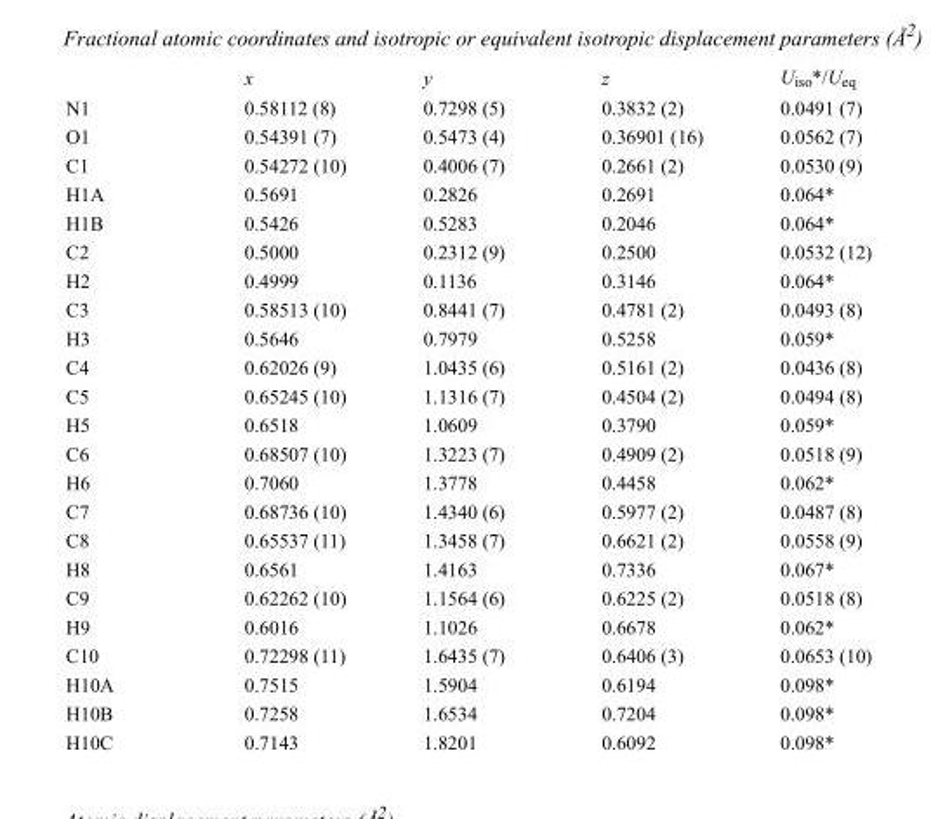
<table><thead><tr><td></td><td>x</td><td>y</td><td>z</td><td>U<sub>iso</sub>*/U<sub>eq</sub></td></tr></thead><tbody><tr><td>N1</td><td>0.58112 (8)</td><td>0.7298 (5)</td><td>0.3832 (2)</td><td>0.0491 (7)</td></tr><tr><td>O1</td><td>0.54391 (7)</td><td>0.5473 (4)</td><td>0.36901 (16)</td><td>0.0562 (7)</td></tr><tr><td>C1</td><td>0.54272 (10)</td><td>0.4006 (7)</td><td>0.2661 (2)</td><td>0.0530 (9)</td></tr><tr><td>H1A</td><td>0.5691</td><td>0.2826</td><td>0.2691</td><td>0.064*</td></tr><tr><td>H1B</td><td>0.5426</td><td>0.5283</td><td>0.2046</td><td>0.064*</td></tr><tr><td>C2</td><td>0.5000</td><td>0.2312 (9)</td><td>0.2500</td><td>0.0532 (12)</td></tr><tr><td>H2</td><td>0.4999</td><td>0.1136</td><td>0.3146</td><td>0.064*</td></tr><tr><td>C3</td><td>0.58513 (10)</td><td>0.8441 (7)</td><td>0.4781 (2)</td><td>0.0493 (8)</td></tr><tr><td>H3</td><td>0.5646</td><td>0.7979</td><td>0.5258</td><td>0.059*</td></tr><tr><td>C4</td><td>0.62026 (9)</td><td>1.0435 (6)</td><td>0.5161 (2)</td><td>0.0436 (8)</td></tr><tr><td>C5</td><td>0.65245 (10)</td><td>1.1316 (7)</td><td>0.4504 (2)</td><td>0.0494 (8)</td></tr><tr><td>H5</td><td>0.6518</td><td>1.0609</td><td>0.3790</td><td>0.059*</td></tr><tr><td>C6</td><td>0.68507 (10)</td><td>1.3223 (7)</td><td>0.4909 (2)</td><td>0.0518 (9)</td></tr><tr><td>H6</td><td>0.7060</td><td>1.3778</td><td>0.4458</td><td>0.062*</td></tr><tr><td>C7</td><td>0.68736 (10)</td><td>1.4340 (6)</td><td>0.5977 (2)</td><td>0.0487 (8)</td></tr><tr><td>C8</td><td>0.65537 (11)</td><td>1.3458 (7)</td><td>0.6621 (2)</td><td>0.0558 (9)</td></tr><tr><td>H8</td><td>0.6561</td><td>1.4163</td><td>0.7336</td><td>0.067*</td></tr><tr><td>C9</td><td>0.62262 (10)</td><td>1.1564 (6)</td><td>0.6225 (2)</td><td>0.0518 (8)</td></tr><tr><td>H9</td><td>0.6016</td><td>1.1026</td><td>0.6678</td><td>0.062*</td></tr><tr><td>C10</td><td>0.72298 (11)</td><td>1.6435 (7)</td><td>0.6406 (3)</td><td>0.0653 (10)</td></tr><tr><td>H10A</td><td>0.7515</td><td>1.5904</td><td>0.6194</td><td>0.098*</td></tr><tr><td>H10B</td><td>0.7258</td><td>1.6534</td><td>0.7204</td><td>0.098*</td></tr><tr><td>H10C</td><td>0.7143</td><td>1.8201</td><td>0.6092</td><td>0.098*</td></tr></tbody></table>